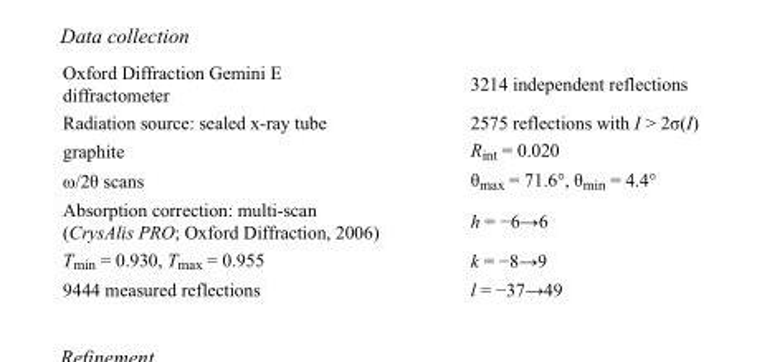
<table><tbody><tr><td>Oxford Diffraction Gemini E diffractometer</td><td>3214 independent reflections</td></tr><tr><td>Radiation source: sealed x-ray tube</td><td>2575 reflections with I &gt; 2σ(I)</td></tr><tr><td>graphite</td><td>R<sub>int</sub> = 0.020</td></tr><tr><td>ω/2θ scans</td><td>θ<sub>max</sub> = 71.6°, θ<sub>min</sub> = 4.4°</td></tr><tr><td>Absorption correction: multi-scan (CrysAlis PRO; Oxford Diffraction, 2006)</td><td>h = −6→6</td></tr><tr><td>T<sub>min</sub> = 0.930, T<sub>max</sub> = 0.955</td><td>k = −8→9</td></tr><tr><td>9444 measured reflections</td><td>l = −37→49</td></tr></tbody></table>